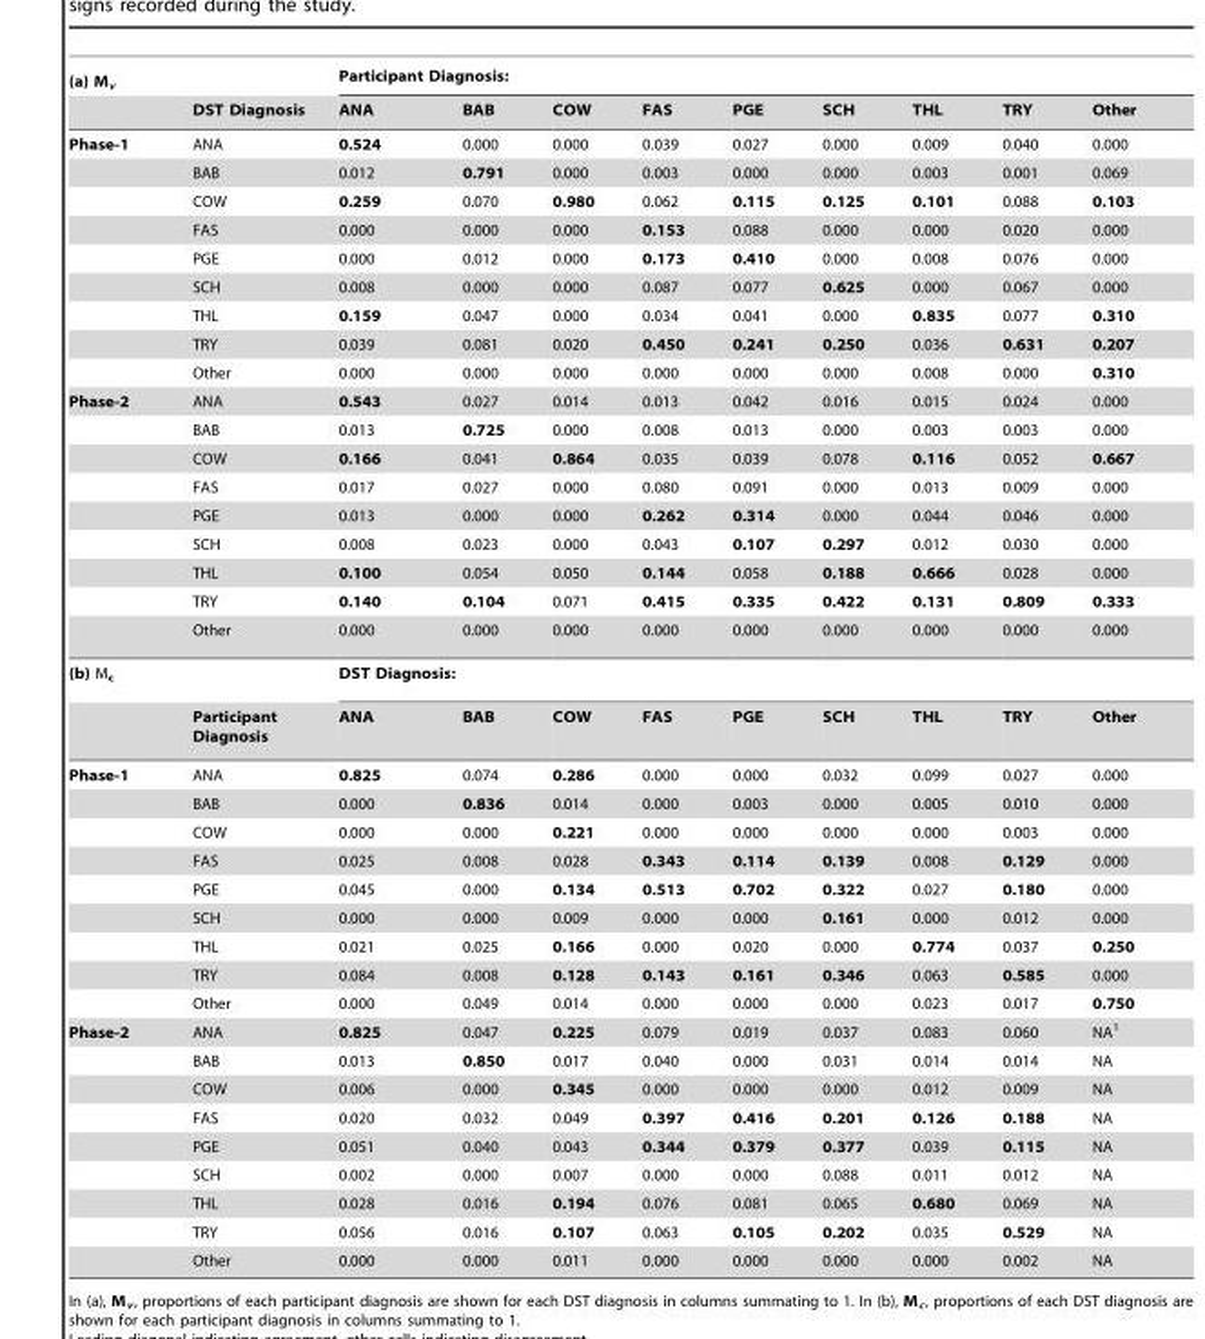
<table><thead><tr><td rowspan="2">(a) M<sub>v</sub></td><td rowspan="2">DST Diagnosis</td><td colspan="9">Participant Diagnosis:</td></tr><tr><td>ANA</td><td>BAB</td><td>COW</td><td>FAS</td><td>PGE</td><td>SCH</td><td>THL</td><td>TRY</td><td>Other</td></tr></thead><tbody><tr><td rowspan="9">Phase-1</td><td>ANA</td><td>0.524</td><td>0.000</td><td>0.000</td><td>0.039</td><td>0.027</td><td>0.000</td><td>0.009</td><td>0.040</td><td>0.000</td></tr><tr><td>BAB</td><td>0.012</td><td>0.791</td><td>0.000</td><td>0.003</td><td>0.000</td><td>0.000</td><td>0.003</td><td>0.001</td><td>0.069</td></tr><tr><td>COW</td><td>0.259</td><td>0.070</td><td>0.980</td><td>0.062</td><td>0.115</td><td>0.125</td><td>0.101</td><td>0.088</td><td>0.103</td></tr><tr><td>FAS</td><td>0.000</td><td>0.000</td><td>0.000</td><td>0.153</td><td>0.088</td><td>0.000</td><td>0.000</td><td>0.020</td><td>0.000</td></tr><tr><td>PGE</td><td>0.000</td><td>0.012</td><td>0.000</td><td>0.173</td><td>0.410</td><td>0.000</td><td>0.008</td><td>0.076</td><td>0.000</td></tr><tr><td>SCH</td><td>0.008</td><td>0.000</td><td>0.000</td><td>0.087</td><td>0.077</td><td>0.625</td><td>0.000</td><td>0.067</td><td>0.000</td></tr><tr><td>THL</td><td>0.159</td><td>0.047</td><td>0.000</td><td>0.034</td><td>0.041</td><td>0.000</td><td>0.835</td><td>0.077</td><td>0.310</td></tr><tr><td>TRY</td><td>0.039</td><td>0.081</td><td>0.020</td><td>0.450</td><td>0.241</td><td>0.250</td><td>0.036</td><td>0.631</td><td>0.207</td></tr><tr><td>Other</td><td>0.000</td><td>0.000</td><td>0.000</td><td>0.000</td><td>0.000</td><td>0.000</td><td>0.008</td><td>0.000</td><td>0.310</td></tr><tr><td rowspan="9">Phase-2</td><td>ANA</td><td>0.543</td><td>0.027</td><td>0.014</td><td>0.013</td><td>0.042</td><td>0.016</td><td>0.015</td><td>0.024</td><td>0.000</td></tr><tr><td>BAB</td><td>0.013</td><td>0.725</td><td>0.000</td><td>0.008</td><td>0.013</td><td>0.000</td><td>0.003</td><td>0.003</td><td>0.000</td></tr><tr><td>COW</td><td>0.166</td><td>0.041</td><td>0.864</td><td>0.035</td><td>0.039</td><td>0.078</td><td>0.116</td><td>0.052</td><td>0.667</td></tr><tr><td>FAS</td><td>0.017</td><td>0.027</td><td>0.000</td><td>0.080</td><td>0.091</td><td>0.000</td><td>0.013</td><td>0.009</td><td>0.000</td></tr><tr><td>PGE</td><td>0.013</td><td>0.000</td><td>0.000</td><td>0.262</td><td>0.314</td><td>0.000</td><td>0.044</td><td>0.046</td><td>0.000</td></tr><tr><td>SCH</td><td>0.008</td><td>0.023</td><td>0.000</td><td>0.043</td><td>0.107</td><td>0.297</td><td>0.012</td><td>0.030</td><td>0.000</td></tr><tr><td>THL</td><td>0.100</td><td>0.054</td><td>0.050</td><td>0.144</td><td>0.058</td><td>0.188</td><td>0.666</td><td>0.028</td><td>0.000</td></tr><tr><td>TRY</td><td>0.140</td><td>0.104</td><td>0.071</td><td>0.415</td><td>0.335</td><td>0.422</td><td>0.131</td><td>0.809</td><td>0.333</td></tr><tr><td>Other</td><td>0.000</td><td>0.000</td><td>0.000</td><td>0.000</td><td>0.000</td><td>0.000</td><td>0.000</td><td>0.000</td><td>0.000</td></tr><tr><td rowspan="2">(b) M<sub>c</sub></td><td></td><td colspan="9">DST Diagnosis:</td></tr><tr><td>Participant Diagnosis</td><td>ANA</td><td>BAB</td><td>COW</td><td>FAS</td><td>PGE</td><td>SCH</td><td>THL</td><td>TRY</td><td>Other</td></tr><tr><td rowspan="9">Phase-1</td><td>ANA</td><td>0.825</td><td>0.074</td><td>0.286</td><td>0.000</td><td>0.000</td><td>0.032</td><td>0.099</td><td>0.027</td><td>0.000</td></tr><tr><td>BAB</td><td>0.000</td><td>0.836</td><td>0.014</td><td>0.000</td><td>0.003</td><td>0.000</td><td>0.005</td><td>0.010</td><td>0.000</td></tr><tr><td>COW</td><td>0.000</td><td>0.000</td><td>0.221</td><td>0.000</td><td>0.000</td><td>0.000</td><td>0.000</td><td>0.003</td><td>0.000</td></tr><tr><td>FAS</td><td>0.025</td><td>0.008</td><td>0.028</td><td>0.343</td><td>0.114</td><td>0.139</td><td>0.008</td><td>0.129</td><td>0.000</td></tr><tr><td>PGE</td><td>0.045</td><td>0.000</td><td>0.134</td><td>0.513</td><td>0.702</td><td>0.322</td><td>0.027</td><td>0.180</td><td>0.000</td></tr><tr><td>SCH</td><td>0.000</td><td>0.000</td><td>0.009</td><td>0.000</td><td>0.000</td><td>0.161</td><td>0.000</td><td>0.012</td><td>0.000</td></tr><tr><td>THL</td><td>0.021</td><td>0.025</td><td>0.166</td><td>0.000</td><td>0.020</td><td>0.000</td><td>0.774</td><td>0.037</td><td>0.250</td></tr><tr><td>TRY</td><td>0.084</td><td>0.008</td><td>0.128</td><td>0.143</td><td>0.161</td><td>0.346</td><td>0.063</td><td>0.585</td><td>0.000</td></tr><tr><td>Other</td><td>0.000</td><td>0.049</td><td>0.014</td><td>0.000</td><td>0.000</td><td>0.000</td><td>0.023</td><td>0.017</td><td>0.750</td></tr><tr><td rowspan="9">Phase-2</td><td>ANA</td><td>0.825</td><td>0.047</td><td>0.225</td><td>0.079</td><td>0.019</td><td>0.037</td><td>0.083</td><td>0.060</td><td>NA<sup>1</sup></td></tr><tr><td>BAB</td><td>0.013</td><td>0.850</td><td>0.017</td><td>0.040</td><td>0.000</td><td>0.031</td><td>0.014</td><td>0.014</td><td>NA</td></tr><tr><td>COW</td><td>0.006</td><td>0.000</td><td>0.345</td><td>0.000</td><td>0.000</td><td>0.000</td><td>0.012</td><td>0.009</td><td>NA</td></tr><tr><td>FAS</td><td>0.020</td><td>0.032</td><td>0.049</td><td>0.397</td><td>0.416</td><td>0.201</td><td>0.126</td><td>0.188</td><td>NA</td></tr><tr><td>PGE</td><td>0.051</td><td>0.040</td><td>0.043</td><td>0.344</td><td>0.379</td><td>0.377</td><td>0.039</td><td>0.115</td><td>NA</td></tr><tr><td>SCH</td><td>0.002</td><td>0.000</td><td>0.007</td><td>0.000</td><td>0.000</td><td>0.088</td><td>0.011</td><td>0.012</td><td>NA</td></tr><tr><td>THL</td><td>0.028</td><td>0.016</td><td>0.194</td><td>0.076</td><td>0.081</td><td>0.065</td><td>0.680</td><td>0.069</td><td>NA</td></tr><tr><td>TRY</td><td>0.056</td><td>0.016</td><td>0.107</td><td>0.063</td><td>0.105</td><td>0.202</td><td>0.035</td><td>0.529</td><td>NA</td></tr><tr><td>Other</td><td>0.000</td><td>0.000</td><td>0.011</td><td>0.000</td><td>0.000</td><td>0.000</td><td>0.000</td><td>0.002</td><td>NA</td></tr></tbody></table>